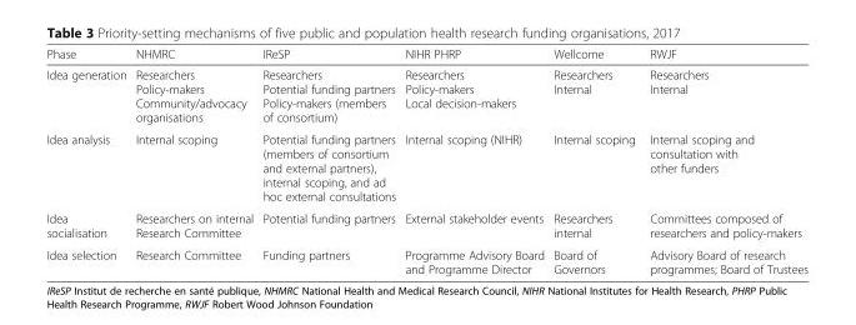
<table><thead><tr><td>Phase</td><td>NHMRC</td><td>IReSP</td><td>NIHR PHRP</td><td>Wellcome</td><td>RWJF</td></tr></thead><tbody><tr><td>Idea generation</td><td>Researchers Policy-makers Community/advocacy organisations</td><td>Researchers Potential funding partners Policy-makers (members of consortium)</td><td>Researchers Policy-makers Local decision-makers</td><td>Researchers Internal</td><td>Researchers Internal</td></tr><tr><td>Idea analysis</td><td>Internal scoping</td><td>Potential funding partners (members of consortium and external partners), internal scoping, and ad hoc external consultations</td><td>Internal scoping (NIHR)</td><td>Internal scoping</td><td>Internal scoping and consultation with other funders</td></tr><tr><td>Idea socialisation</td><td>Researchers on internal Research Committee</td><td>Potential funding partners</td><td>External stakeholder events</td><td>Researchers internal</td><td>Committees composed of researchers and policy-makers</td></tr><tr><td>Idea selection</td><td>Research Committee</td><td>Funding partners</td><td>Programme Advisory Board and Programme Director</td><td>Board of Governors</td><td>Advisory Board of research programmes; Board of Trustees</td></tr></tbody></table>